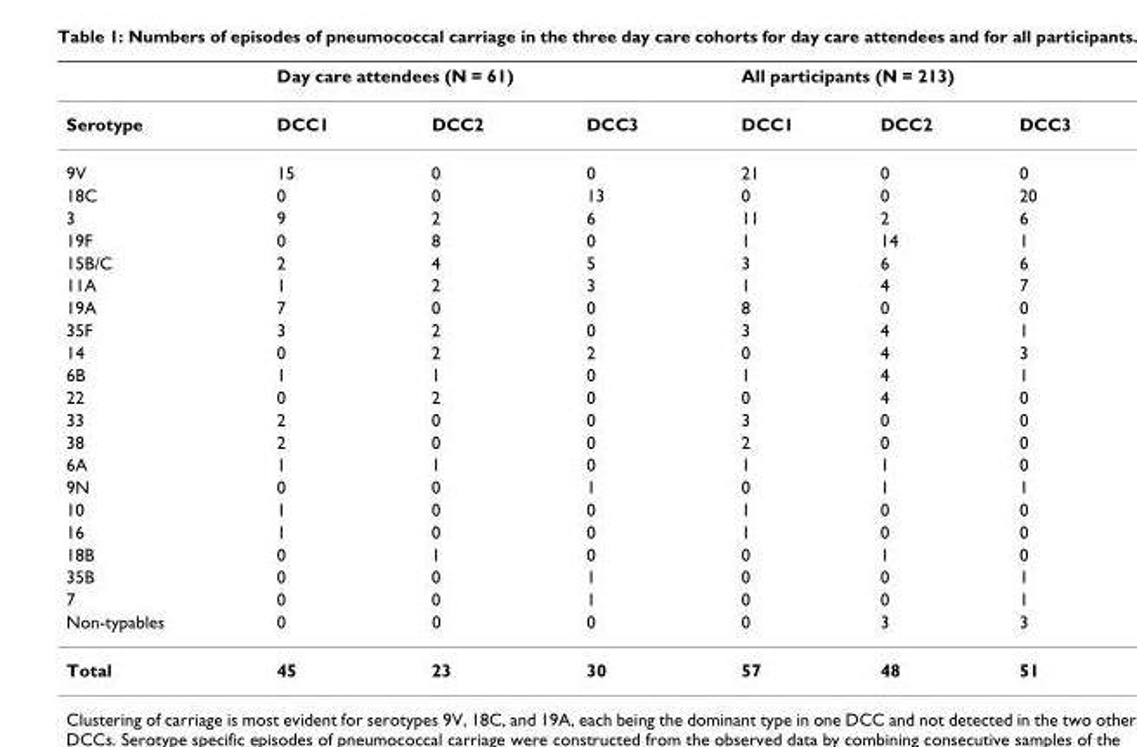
<table><thead><tr><td rowspan="2">Serotype</td><td colspan="3">Day care attendees (N = 61)</td><td colspan="3">All participants (N = 213)</td></tr><tr><td>DCC1</td><td>DCC2</td><td>DCC3</td><td>DCC1</td><td>DCC2</td><td>DCC3</td></tr></thead><tbody><tr><td>9V</td><td>15</td><td>0</td><td>0</td><td>21</td><td>0</td><td>0</td></tr><tr><td>18C</td><td>0</td><td>0</td><td>13</td><td>0</td><td>0</td><td>20</td></tr><tr><td>3</td><td>9</td><td>2</td><td>6</td><td>11</td><td>2</td><td>6</td></tr><tr><td>19F</td><td>0</td><td>8</td><td>0</td><td>1</td><td>14</td><td>1</td></tr><tr><td>15B/C</td><td>2</td><td>4</td><td>5</td><td>3</td><td>6</td><td>6</td></tr><tr><td>11A</td><td>1</td><td>2</td><td>3</td><td>1</td><td>4</td><td>7</td></tr><tr><td>19A</td><td>7</td><td>0</td><td>0</td><td>8</td><td>0</td><td>0</td></tr><tr><td>35F</td><td>3</td><td>2</td><td>0</td><td>3</td><td>4</td><td>1</td></tr><tr><td>14</td><td>0</td><td>2</td><td>2</td><td>0</td><td>4</td><td>3</td></tr><tr><td>6B</td><td>1</td><td>1</td><td>0</td><td>1</td><td>4</td><td>1</td></tr><tr><td>22</td><td>0</td><td>2</td><td>0</td><td>0</td><td>4</td><td>0</td></tr><tr><td>33</td><td>2</td><td>0</td><td>0</td><td>3</td><td>0</td><td>0</td></tr><tr><td>38</td><td>2</td><td>0</td><td>0</td><td>2</td><td>0</td><td>0</td></tr><tr><td>6A</td><td>1</td><td>1</td><td>0</td><td>1</td><td>1</td><td>0</td></tr><tr><td>9N</td><td>0</td><td>0</td><td>1</td><td>0</td><td>1</td><td>1</td></tr><tr><td>10</td><td>1</td><td>0</td><td>0</td><td>1</td><td>0</td><td>0</td></tr><tr><td>16</td><td>1</td><td>0</td><td>0</td><td>1</td><td>0</td><td>0</td></tr><tr><td>18B</td><td>0</td><td>1</td><td>0</td><td>0</td><td>1</td><td>0</td></tr><tr><td>35B</td><td>0</td><td>0</td><td>1</td><td>0</td><td>0</td><td>1</td></tr><tr><td>7</td><td>0</td><td>0</td><td>1</td><td>0</td><td>0</td><td>1</td></tr><tr><td>Non-typables</td><td>0</td><td>0</td><td>0</td><td>0</td><td>3</td><td>3</td></tr><tr><td>Total</td><td>45</td><td>23</td><td>30</td><td>57</td><td>48</td><td>51</td></tr></tbody></table>